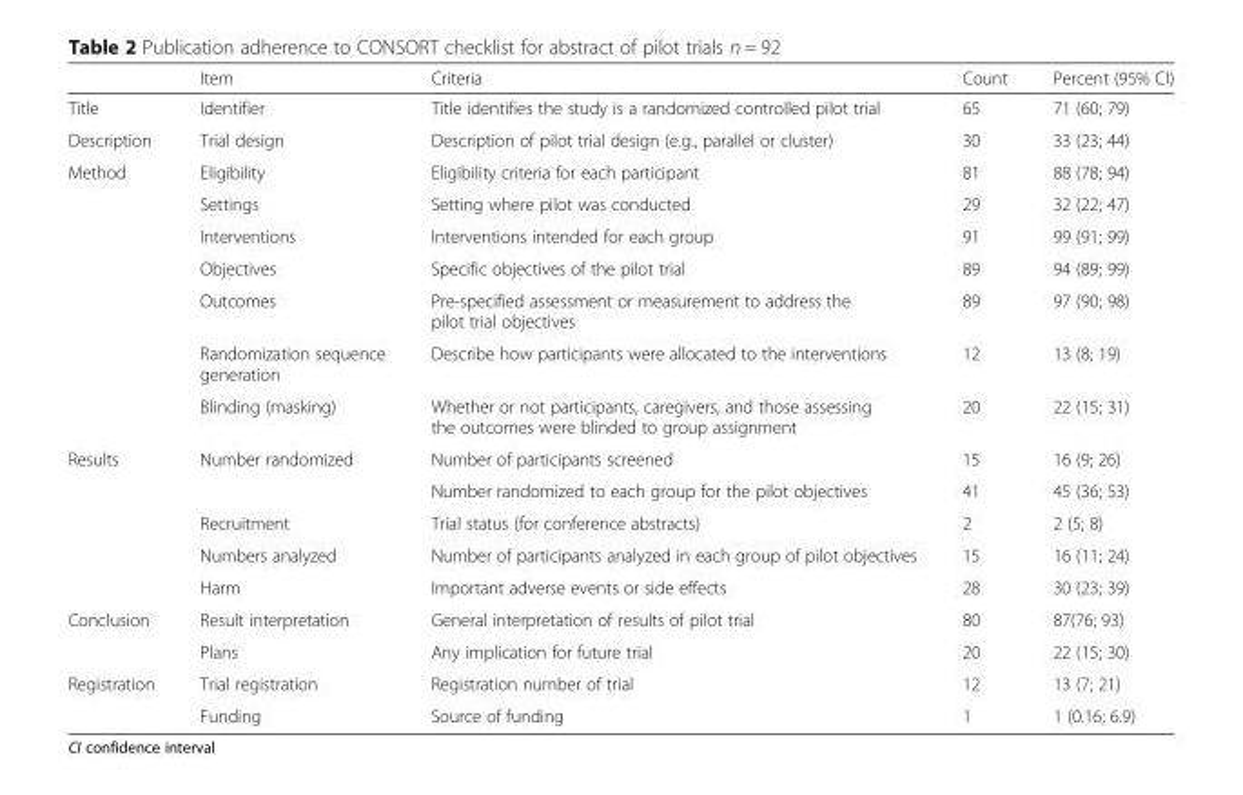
<table><thead><tr><td></td><td>Item</td><td>Criteria</td><td>Count</td><td>Percent (95% CI)</td></tr></thead><tbody><tr><td>Title</td><td>Identifier</td><td>Title identifies the study is a randomized controlled pilot trial</td><td>65</td><td>71 (60; 79)</td></tr><tr><td>Description</td><td>Trial design</td><td>Description of pilot trial design (e.g., parallel or cluster)</td><td>30</td><td>33 (23; 44)</td></tr><tr><td rowspan="7">Method</td><td>Eligibility</td><td>Eligibility criteria for each participant</td><td>81</td><td>88 (78; 94)</td></tr><tr><td>Settings</td><td>Setting where pilot was conducted</td><td>29</td><td>32 (22; 47)</td></tr><tr><td>Interventions</td><td>Interventions intended for each group</td><td>91</td><td>99 (91; 99)</td></tr><tr><td>Objectives</td><td>Specific objectives of the pilot trial</td><td>89</td><td>94 (89; 99)</td></tr><tr><td>Outcomes</td><td>Pre-specified assessment or measurement to address the pilot trial objectives</td><td>89</td><td>97 (90; 98)</td></tr><tr><td>Randomization sequence generation</td><td>Describe how participants were allocated to the interventions</td><td>12</td><td>13 (8; 19)</td></tr><tr><td>Blinding (masking)</td><td>Whether or not participants, caregivers, and those assessing the outcomes were blinded to group assignment</td><td>20</td><td>22 (15; 31)</td></tr><tr><td rowspan="5">Results</td><td rowspan="2">Number randomized</td><td>Number of participants screened</td><td>15</td><td>16 (9; 26)</td></tr><tr><td>Number randomized to each group for the pilot objectives</td><td>41</td><td>45 (36; 53)</td></tr><tr><td>Recruitment</td><td>Trial status (for conference abstracts)</td><td>2</td><td>2 (5; 8)</td></tr><tr><td>Numbers analyzed</td><td>Number of participants analyzed in each group of pilot objectives</td><td>15</td><td>16 (11; 24)</td></tr><tr><td>Harm</td><td>Important adverse events or side effects</td><td>28</td><td>30 (23; 39)</td></tr><tr><td rowspan="2">Conclusion</td><td>Result interpretation</td><td>General interpretation of results of pilot trial</td><td>80</td><td>87(76; 93)</td></tr><tr><td>Plans</td><td>Any implication for future trial</td><td>20</td><td>22 (15; 30)</td></tr><tr><td rowspan="2">Registration</td><td>Trial registration</td><td>Registration number of trial</td><td>12</td><td>13 (7; 21)</td></tr><tr><td>Funding</td><td>Source of funding</td><td>1</td><td>1 (0.16; 6.9)</td></tr></tbody></table>